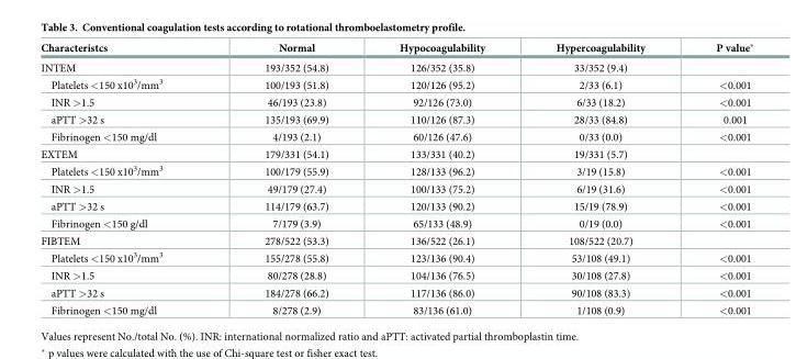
<table><thead><tr><td>Characteristcs</td><td>Normal</td><td>Hypocoagulability</td><td>Hypercoagulability</td><td>P value*</td></tr></thead><tbody><tr><td>INTEM</td><td>193/352 (54.8)</td><td>126/352 (35.8)</td><td>33/352 (9.4)</td><td></td></tr><tr><td>Platelets &lt;150 x10<sup>3</sup>/mm<sup>3</sup></td><td>100/193 (51.8)</td><td>120/126 (95.2)</td><td>2/33 (6.1)</td><td>&lt;0.001</td></tr><tr><td>INR &gt;1.5</td><td>46/193 (23.8)</td><td>92/126 (73.0)</td><td>6/33 (18.2)</td><td>&lt;0.001</td></tr><tr><td>aPTT &gt;32 s</td><td>135/193 (69.9)</td><td>110/126 (87.3)</td><td>28/33 (84.8)</td><td>0.001</td></tr><tr><td>Fibrinogen &lt;150 mg/dl</td><td>4/193 (2.1)</td><td>60/126 (47.6)</td><td>0/33 (0.0)</td><td>&lt;0.001</td></tr><tr><td>EXTEM</td><td>179/331 (54.1)</td><td>133/331 (40.2)</td><td>19/331 (5.7)</td><td></td></tr><tr><td>Platelets &lt;150 x10<sup>3</sup>/mm<sup>3</sup></td><td>100/179 (55.9)</td><td>128/133 (96.2)</td><td>3/19 (15.8)</td><td>&lt;0.001</td></tr><tr><td>INR &gt;1.5</td><td>49/179 (27.4)</td><td>100/133 (75.2)</td><td>6/19 (31.6)</td><td>&lt;0.001</td></tr><tr><td>aPTT &gt;32 s</td><td>114/179 (63.7)</td><td>120/133 (90.2)</td><td>15/19 (78.9)</td><td>&lt;0.001</td></tr><tr><td>Fibrinogen &lt;150 g/dl</td><td>7/179 (3.9)</td><td>65/133 (48.9)</td><td>0/19 (0.0)</td><td>&lt;0.001</td></tr><tr><td>FIBTEM</td><td>278/522 (53.3)</td><td>136/522 (26.1)</td><td>108/522 (20.7)</td><td></td></tr><tr><td>Platelets &lt;150 x10<sup>3</sup>/mm<sup>3</sup></td><td>155/278 (55.8)</td><td>123/136 (90.4)</td><td>53/108 (49.1)</td><td>&lt;0.001</td></tr><tr><td>INR &gt;1.5</td><td>80/278 (28.8)</td><td>104/136 (76.5)</td><td>30/108 (27.8)</td><td>&lt;0.001</td></tr><tr><td>aPTT &gt;32 s</td><td>184/278 (66.2)</td><td>117/136 (86.0)</td><td>90/108 (83.3)</td><td>&lt;0.001</td></tr><tr><td>Fibrinogen &lt;150 mg/dl</td><td>8/278 (2.9)</td><td>83/136 (61.0)</td><td>1/108 (0.9)</td><td>&lt;0.001</td></tr></tbody></table>